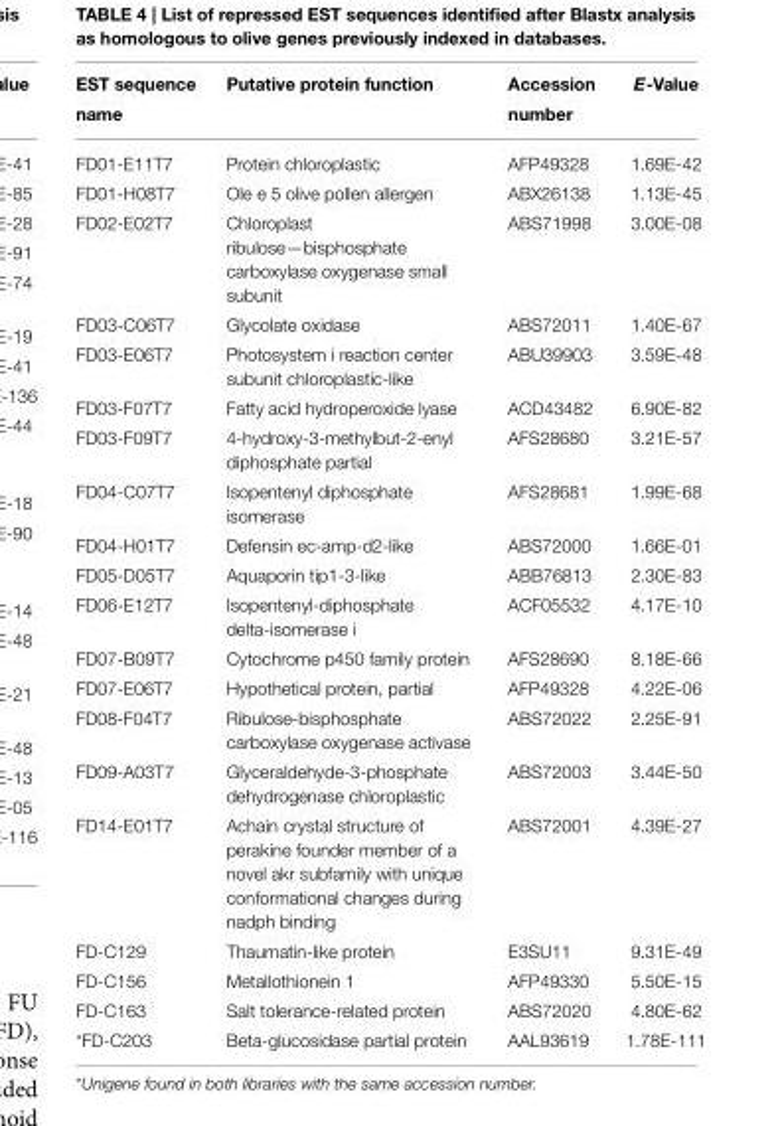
<table><thead><tr><td>EST sequence name</td><td>Putative protein function</td><td>Accession number</td><td>E-Value</td></tr></thead><tbody><tr><td>FD01-E11T7</td><td>Protein chloroplastic</td><td>AFP49328</td><td>1.69E-42</td></tr><tr><td>FD01-H08T7</td><td>Ole e 5 olive pollen allergen</td><td>ABX26138</td><td>1.13E-45</td></tr><tr><td>FD02-E02T7</td><td>Chloroplast ribulose—bisphosphate carboxylase oxygenase small subunit</td><td>ABS71998</td><td>3.00E-08</td></tr><tr><td>FD03-C06T7</td><td>Glycolate oxidase</td><td>ABS72011</td><td>1.40E-67</td></tr><tr><td>FD03-E06T7</td><td>Photosystem i reaction center subunit chloroplastic-like</td><td>ABU39903</td><td>3.59E-48</td></tr><tr><td>FD03-F07T7</td><td>Fatty acid hydroperoxide lyase</td><td>ACD43482</td><td>6.90E-82</td></tr><tr><td>FD03-F09T7</td><td>4-hydroxy-3-methylbut-2-enyl diphosphate partial</td><td>AFS28680</td><td>3.21E-57</td></tr><tr><td>FD04-C07T7</td><td>Isopentenyl diphosphate isomerase</td><td>AFS28681</td><td>1.99E-68</td></tr><tr><td>FD04-H01T7</td><td>Defensin ec-amp-d2-like</td><td>ABS72000</td><td>1.66E-01</td></tr><tr><td>FD05-D05T7</td><td>Aquaporin tip1-3-like</td><td>ABB76813</td><td>2.30E-83</td></tr><tr><td>FD06-E12T7</td><td>Isopentenyl-diphosphate delta-isomerase i</td><td>ACF05532</td><td>4.17E-10</td></tr><tr><td>FD07-B09T7</td><td>Cytochrome p450 family protein</td><td>AFS28690</td><td>8.18E-66</td></tr><tr><td>FD07-E06T7</td><td>Hypothetical protein, partial</td><td>AFP49328</td><td>4.22E-06</td></tr><tr><td>FD08-F04T7</td><td>Ribulose-bisphosphate carboxylase oxygenase activase</td><td>ABS72022</td><td>2.25E-91</td></tr><tr><td>FD09-A03T7</td><td>Glyceraldehyde-3-phosphate dehydrogenase chloroplastic</td><td>ABS72003</td><td>3.44E-50</td></tr><tr><td>FD14-E01T7</td><td>Achain crystal structure of perakine founder member of a novel akr subfamily with unique conformational changes during nadph binding</td><td>ABS72001</td><td>4.39E-27</td></tr><tr><td>FD-C129</td><td>Thaumatin-like protein</td><td>E3SU11</td><td>9.31E-49</td></tr><tr><td>FD-C156</td><td>Metallothionein 1</td><td>AFP49330</td><td>5.50E-15</td></tr><tr><td>FD-C163</td><td>Salt tolerance-related protein</td><td>ABS72020</td><td>4.80E-62</td></tr><tr><td>*FD-C203</td><td>Beta-glucosidase partial protein</td><td>AAL93619</td><td>1.78E-111</td></tr></tbody></table>